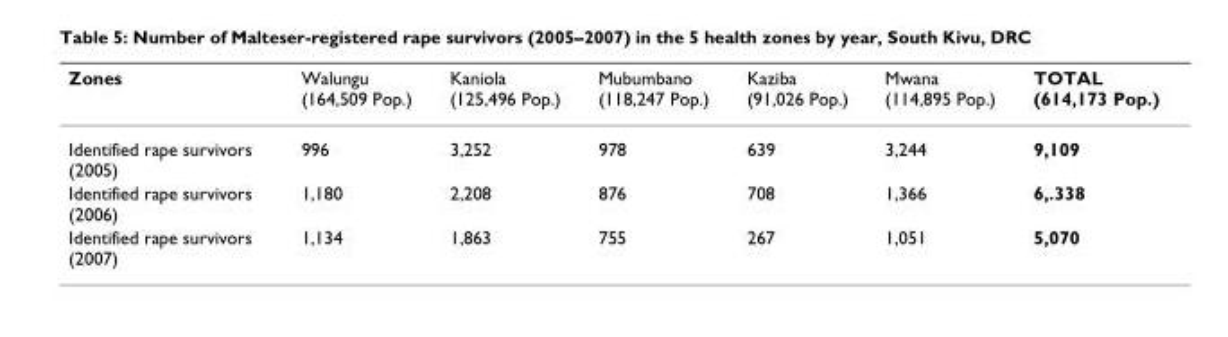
<table><thead><tr><td>Zones</td><td>Walungu (164,509 Pop.)</td><td>Kaniola (125,496 Pop.)</td><td>Mubumbano (118,247 Pop.)</td><td>Kaziba (91,026 Pop.)</td><td>Mwana (114,895 Pop.)</td><td>TOTAL (614,173 Pop.)</td></tr></thead><tbody><tr><td>Identified rape survivors (2005)</td><td>996</td><td>3,252</td><td>978</td><td>639</td><td>3,244</td><td>9,109</td></tr><tr><td>Identified rape survivors (2006)</td><td>1,180</td><td>2,208</td><td>876</td><td>708</td><td>1,366</td><td>6,.338</td></tr><tr><td>Identified rape survivors (2007)</td><td>1,134</td><td>1,863</td><td>755</td><td>267</td><td>1,051</td><td>5,070</td></tr></tbody></table>